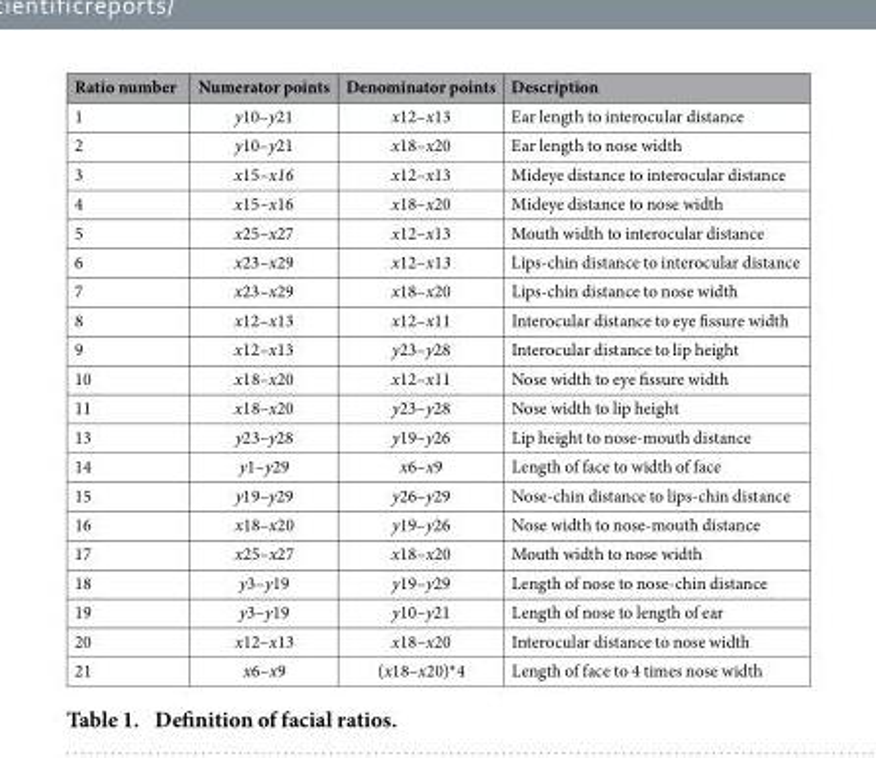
<table><thead><tr><td>Ratio number</td><td>Numerator points</td><td>Denominator points</td><td>Description</td></tr></thead><tbody><tr><td>1</td><td>y10–y21</td><td>x12–x13</td><td>Ear length to interocular distance</td></tr><tr><td>2</td><td>y10–y21</td><td>x18–x20</td><td>Ear length to nose width</td></tr><tr><td>3</td><td>x15–x16</td><td>x12–x13</td><td>Mideye distance to interocular distance</td></tr><tr><td>4</td><td>x15–x16</td><td>x18–x20</td><td>Mideye distance to nose width</td></tr><tr><td>5</td><td>x25–x27</td><td>x12–x13</td><td>Mouth width to interocular distance</td></tr><tr><td>6</td><td>x23–x29</td><td>x12–x13</td><td>Lips-chin distance to interocular distance</td></tr><tr><td>7</td><td>x23–x29</td><td>x18–x20</td><td>Lips-chin distance to nose width</td></tr><tr><td>8</td><td>x12–x13</td><td>x12–x11</td><td>Interocular distance to eye fissure width</td></tr><tr><td>9</td><td>x12–x13</td><td>y23–y28</td><td>Interocular distance to lip height</td></tr><tr><td>10</td><td>x18–x20</td><td>x12–x11</td><td>Nose width to eye fissure width</td></tr><tr><td>11</td><td>x18–x20</td><td>y23–y28</td><td>Nose width to lip height</td></tr><tr><td>13</td><td>y23–y28</td><td>y19–y26</td><td>Lip height to nose-mouth distance</td></tr><tr><td>14</td><td>y1–y29</td><td>x6–x9</td><td>Length of face to width of face</td></tr><tr><td>15</td><td>y19–y29</td><td>y26–y29</td><td>Nose-chin distance to lips-chin distance</td></tr><tr><td>16</td><td>x18–x20</td><td>y19–y26</td><td>Nose width to nose-mouth distance</td></tr><tr><td>17</td><td>x25–x27</td><td>x18–x20</td><td>Mouth width to nose width</td></tr><tr><td>18</td><td>y3–y19</td><td>y19–y29</td><td>Length of nose to nose-chin distance</td></tr><tr><td>19</td><td>y3–y19</td><td>y10–y21</td><td>Length of nose to length of ear</td></tr><tr><td>20</td><td>x12–x13</td><td>x18–x20</td><td>Interocular distance to nose width</td></tr><tr><td>21</td><td>x6–x9</td><td>(x18–x20)*4</td><td>Length of face to 4 times nose width</td></tr></tbody></table>